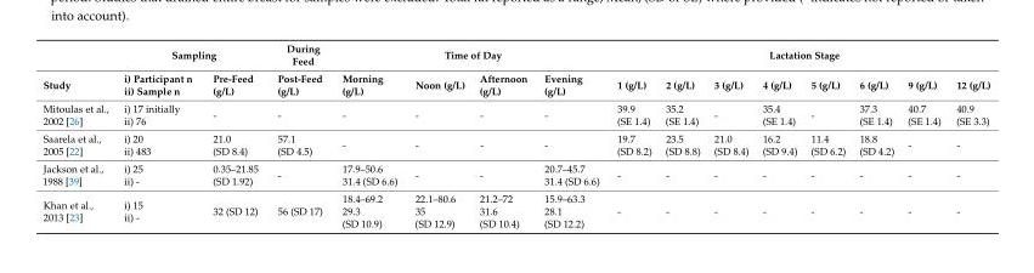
<table><thead><tr><td rowspan="2">Study</td><td colspan="2">Sampling</td><td rowspan="2">During Feed Post-Feed (g/L)</td><td colspan="4">Time of Day</td><td colspan="8">Lactation Stage</td></tr><tr><td>i) Participant n ii) Sample n</td><td>Pre-Feed (g/L)</td><td>Morning (g/L)</td><td>Noon (g/L)</td><td>Afternoon (g/L)</td><td>Evening (g/L)</td><td>1 (g/L)</td><td>2 (g/L)</td><td>3 (g/L)</td><td>4 (g/L)</td><td>5 (g/L)</td><td>6 (g/L)</td><td>9 (g/L)</td><td>12 (g/L)</td></tr></thead><tbody><tr><td>Mitoulas et al., 2002 [26]</td><td>i) 17 initially ii) 76</td><td>-</td><td>-</td><td>-</td><td>-</td><td>-</td><td>-</td><td>39.9 (SE 1.4)</td><td>35.2 (SE 1.4)</td><td>-</td><td>35.4 (SE 1.4)</td><td>-</td><td>37.3 (SE 1.4)</td><td>40.7 (SE 1.4)</td><td>40.9 (SE 3.3)</td></tr><tr><td>Saarela et al., 2005 [22]</td><td>i) 20 ii) 483</td><td>21.0 (SD 8.4)</td><td>57.1 (SD 4.5)</td><td>-</td><td>-</td><td>-</td><td>-</td><td>19.7 (SD 8.2)</td><td>23.5 (SD 8.8)</td><td>21.0 (SD 8.4)</td><td>16.2 (SD 9.4)</td><td>11.4 (SD 6.2)</td><td>18.8 (SD 4.2)</td><td>-</td><td>-</td></tr><tr><td>Jackson et al., 1988 [39]</td><td>i) 25 ii) -</td><td>0.35–21.85 (SD 1.92)</td><td>-</td><td>17.9–50.6 31.4 (SD 6.6)</td><td>-</td><td>-</td><td>20.7–45.7 31.4 (SD 6.6)</td><td>-</td><td>-</td><td>-</td><td>-</td><td>-</td><td>-</td><td>-</td><td>-</td></tr><tr><td>Khan et al., 2013 [23]</td><td>i) 15 ii) -</td><td>32 (SD 12)</td><td>56 (SD 17)</td><td>18.4–69.2 29.3 (SD 10.9)</td><td>22.1–80.6 35 (SD 12.9)</td><td>21.2–72 31.6 (SD 10.4)</td><td>15.9–63.3 28.1 (SD 12.2)</td><td>-</td><td>-</td><td>-</td><td>-</td><td>-</td><td>-</td><td>-</td><td>-</td></tr></tbody></table>